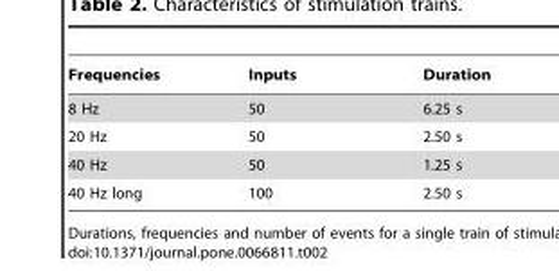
<table><thead><tr><td>Frequencies</td><td>Inputs</td><td>Duration</td></tr></thead><tbody><tr><td>8 Hz</td><td>50</td><td>6.25 s</td></tr><tr><td>20 Hz</td><td>50</td><td>2.50 s</td></tr><tr><td>40 Hz</td><td>50</td><td>1.25 s</td></tr><tr><td>40 Hz long</td><td>100</td><td>2.50 s</td></tr></tbody></table>